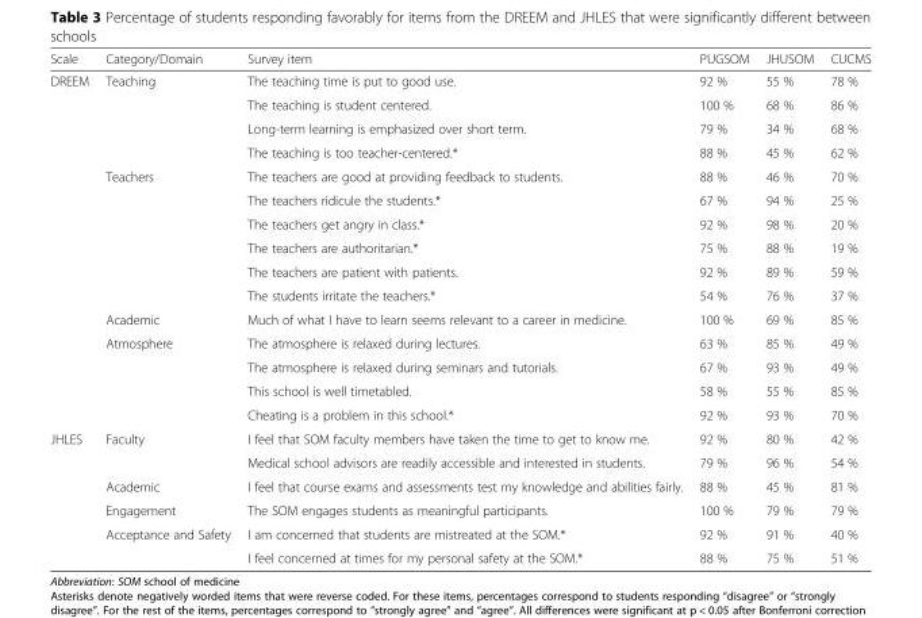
<table><thead><tr><td>Scale</td><td>Category/Domain</td><td>Survey item</td><td>PUGSOM</td><td>JHUSOM</td><td>CUCMS</td></tr></thead><tbody><tr><td rowspan="15">DREEM</td><td rowspan="4">Teaching</td><td>The teaching time is put to good use.</td><td>92 %</td><td>55 %</td><td>78 %</td></tr><tr><td>The teaching is student centered.</td><td>100 %</td><td>68 %</td><td>86 %</td></tr><tr><td>Long-term learning is emphasized over short term.</td><td>79 %</td><td>34 %</td><td>68 %</td></tr><tr><td>The teaching is too teacher-centered.*</td><td>88 %</td><td>45 %</td><td>62 %</td></tr><tr><td rowspan="6">Teachers</td><td>The teachers are good at providing feedback to students.</td><td>88 %</td><td>46 %</td><td>70 %</td></tr><tr><td>The teachers ridicule the students.*</td><td>67 %</td><td>94 %</td><td>25 %</td></tr><tr><td>The teachers get angry in class.*</td><td>92 %</td><td>98 %</td><td>20 %</td></tr><tr><td>The teachers are authoritarian.*</td><td>75 %</td><td>88 %</td><td>19 %</td></tr><tr><td>The teachers are patient with patients.</td><td>92 %</td><td>89 %</td><td>59 %</td></tr><tr><td>The students irritate the teachers.*</td><td>54 %</td><td>76 %</td><td>37 %</td></tr><tr><td>Academic</td><td>Much of what I have to learn seems relevant to a career in medicine.</td><td>100 %</td><td>69 %</td><td>85 %</td></tr><tr><td rowspan="4">Atmosphere</td><td>The atmosphere is relaxed during lectures.</td><td>63 %</td><td>85 %</td><td>49 %</td></tr><tr><td>The atmosphere is relaxed during seminars and tutorials.</td><td>67 %</td><td>93 %</td><td>49 %</td></tr><tr><td>This school is well timetabled.</td><td>58 %</td><td>55 %</td><td>85 %</td></tr><tr><td>Cheating is a problem in this school.*</td><td>92 %</td><td>93 %</td><td>70 %</td></tr><tr><td rowspan="6">JHLES</td><td rowspan="2">Faculty</td><td>I feel that SOM faculty members have taken the time to get to know me.</td><td>92 %</td><td>80 %</td><td>42 %</td></tr><tr><td>Medical school advisors are readily accessible and interested in students.</td><td>79 %</td><td>96 %</td><td>54 %</td></tr><tr><td>Academic</td><td>I feel that course exams and assessments test my knowledge and abilities fairly.</td><td>88 %</td><td>45 %</td><td>81 %</td></tr><tr><td>Engagement</td><td>The SOM engages students as meaningful participants.</td><td>100 %</td><td>79 %</td><td>79 %</td></tr><tr><td rowspan="2">Acceptance and Safety</td><td>I am concerned that students are mistreated at the SOM.*</td><td>92 %</td><td>91 %</td><td>40 %</td></tr><tr><td>I feel concerned at times for my personal safety at the SOM.*</td><td>88 %</td><td>75 %</td><td>51 %</td></tr></tbody></table>